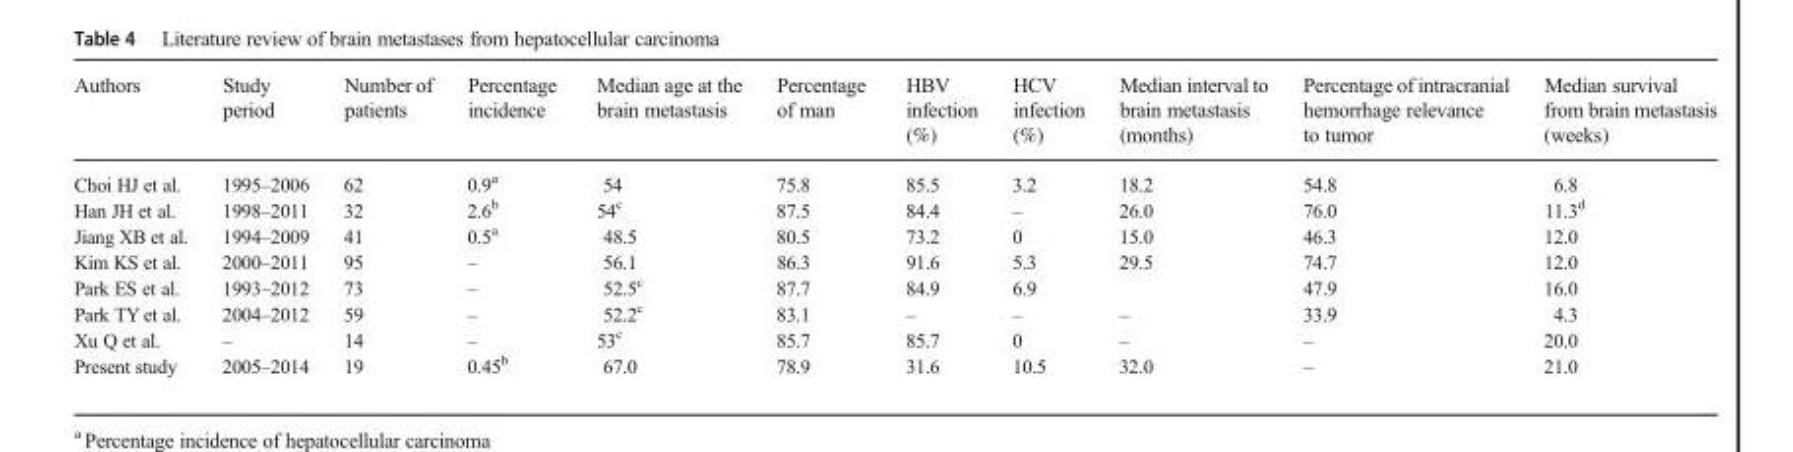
<table><thead><tr><td>Authors</td><td>Study period</td><td>Number of patients</td><td>Percentage incidence</td><td>Median age at the brain metastasis</td><td>Percentage of man</td><td>HBV infection (%)</td><td>HCV infection (%)</td><td>Median interval to brain metastasis (months)</td><td>Percentage of intracranial hemorrhage relevance to tumor</td><td>Median survival from brain metastasis (weeks)</td></tr></thead><tbody><tr><td>Choi HJ et al.</td><td>1995–2006</td><td>62</td><td>0.9<sup>a</sup></td><td>54</td><td>75.8</td><td>85.5</td><td>3.2</td><td>18.2</td><td>54.8</td><td>6.8</td></tr><tr><td>Han JH et al.</td><td>1998–2011</td><td>32</td><td>2.6<sup>b</sup></td><td>54<sup>c</sup></td><td>87.5</td><td>84.4</td><td>–</td><td>26.0</td><td>76.0</td><td>11.3<sup>d</sup></td></tr><tr><td>Jiang XB et al.</td><td>1994–2009</td><td>41</td><td>0.5<sup>a</sup></td><td>48.5</td><td>80.5</td><td>73.2</td><td>0</td><td>15.0</td><td>46.3</td><td>12.0</td></tr><tr><td>Kim KS et al.</td><td>2000–2011</td><td>95</td><td>–</td><td>56.1</td><td>86.3</td><td>91.6</td><td>5.3</td><td>29.5</td><td>74.7</td><td>12.0</td></tr><tr><td>Park ES et al.</td><td>1993–2012</td><td>73</td><td>–</td><td>52.5<sup>c</sup></td><td>87.7</td><td>84.9</td><td>6.9</td><td></td><td>47.9</td><td>16.0</td></tr><tr><td>Park TY et al.</td><td>2004–2012</td><td>59</td><td>–</td><td>52.2<sup>c</sup></td><td>83.1</td><td>–</td><td>–</td><td>–</td><td>33.9</td><td>4.3</td></tr><tr><td>Xu Q et al.</td><td>–</td><td>14</td><td>–</td><td>53<sup>c</sup></td><td>85.7</td><td>85.7</td><td>0</td><td>–</td><td>–</td><td>20.0</td></tr><tr><td>Present study</td><td>2005–2014</td><td>19</td><td>0.45<sup>b</sup></td><td>67.0</td><td>78.9</td><td>31.6</td><td>10.5</td><td>32.0</td><td>–</td><td>21.0</td></tr></tbody></table>